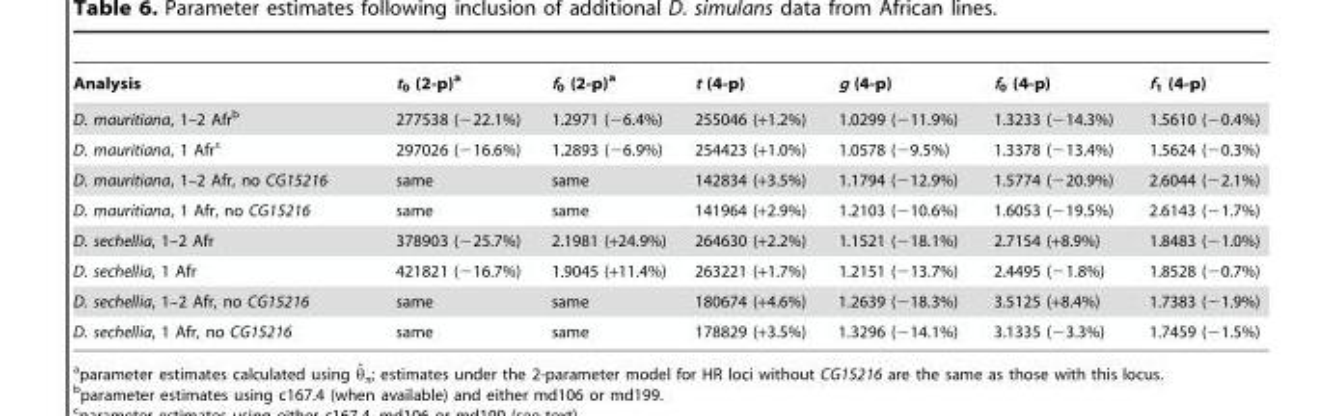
<table><thead><tr><td>Analysis</td><td>t<sub>0</sub> (2-p)<sup>a</sup></td><td>f<sub>0</sub> (2-p)<sup>a</sup></td><td>t (4-p)</td><td>g (4-p)</td><td>f<sub>0</sub> (4-p)</td><td>f<sub>1</sub> (4-p)</td></tr></thead><tbody><tr><td>D. mauritiana, 1–2 Afr<sup>b</sup></td><td>277538 (−22.1%)</td><td>1.2971 (−6.4%)</td><td>255046 (+1.2%)</td><td>1.0299 (−11.9%)</td><td>1.3233 (−14.3%)</td><td>1.5610 (−0.4%)</td></tr><tr><td>D. mauritiana, 1 Afr<sup>c</sup></td><td>297026 (−16.6%)</td><td>1.2893 (−6.9%)</td><td>254423 (+1.0%)</td><td>1.0578 (−9.5%)</td><td>1.3378 (−13.4%)</td><td>1.5624 (−0.3%)</td></tr><tr><td>D. mauritiana, 1–2 Afr, no CG15216</td><td>same</td><td>same</td><td>142834 (+3.5%)</td><td>1.1794 (−12.9%)</td><td>1.5774 (−20.9%)</td><td>2.6044 (−2.1%)</td></tr><tr><td>D. mauritiana, 1 Afr, no CG15216</td><td>same</td><td>same</td><td>141964 (+2.9%)</td><td>1.2103 (−10.6%)</td><td>1.6053 (−19.5%)</td><td>2.6143 (−1.7%)</td></tr><tr><td>D. sechellia, 1–2 Afr</td><td>378903 (−25.7%)</td><td>2.1981 (+24.9%)</td><td>264630 (+2.2%)</td><td>1.1521 (−18.1%)</td><td>2.7154 (+8.9%)</td><td>1.8483 (−1.0%)</td></tr><tr><td>D. sechellia, 1 Afr</td><td>421821 (−16.7%)</td><td>1.9045 (+11.4%)</td><td>263221 (+1.7%)</td><td>1.2151 (−13.7%)</td><td>2.4495 (−1.8%)</td><td>1.8528 (−0.7%)</td></tr><tr><td>D. sechellia, 1–2 Afr, no CG15216</td><td>same</td><td>same</td><td>180674 (+4.6%)</td><td>1.2639 (−18.3%)</td><td>3.5125 (+8.4%)</td><td>1.7383 (−1.9%)</td></tr><tr><td>D. sechellia, 1 Afr, no CG15216</td><td>same</td><td>same</td><td>178829 (+3.5%)</td><td>1.3296 (−14.1%)</td><td>3.1335 (−3.3%)</td><td>1.7459 (−1.5%)</td></tr></tbody></table>